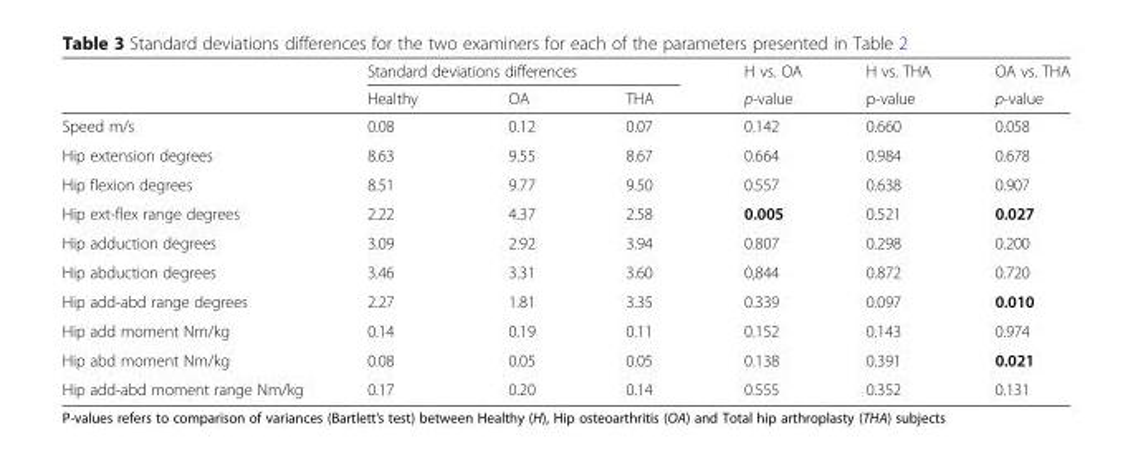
<table><thead><tr><td rowspan="2"></td><td colspan="3">Standard deviations differences</td><td rowspan="2">H vs. OA p-value</td><td rowspan="2">H vs. THA p-value</td><td rowspan="2">OA vs. THA p-value</td></tr><tr><td>Healthy</td><td>OA</td><td>THA</td></tr></thead><tbody><tr><td>Speed m/s</td><td>0.08</td><td>0.12</td><td>0.07</td><td>0.142</td><td>0.660</td><td>0.058</td></tr><tr><td>Hip extension degrees</td><td>8.63</td><td>9.55</td><td>8.67</td><td>0.664</td><td>0.984</td><td>0.678</td></tr><tr><td>Hip flexion degrees</td><td>8.51</td><td>9.77</td><td>9.50</td><td>0.557</td><td>0.638</td><td>0.907</td></tr><tr><td>Hip ext-flex range degrees</td><td>2.22</td><td>4.37</td><td>2.58</td><td>0.005</td><td>0.521</td><td>0.027</td></tr><tr><td>Hip adduction degrees</td><td>3.09</td><td>2.92</td><td>3.94</td><td>0.807</td><td>0.298</td><td>0.200</td></tr><tr><td>Hip abduction degrees</td><td>3.46</td><td>3.31</td><td>3.60</td><td>0,844</td><td>0.872</td><td>0.720</td></tr><tr><td>Hip add-abd range degrees</td><td>2.27</td><td>1.81</td><td>3.35</td><td>0.339</td><td>0.097</td><td>0.010</td></tr><tr><td>Hip add moment Nm/kg</td><td>0.14</td><td>0.19</td><td>0.11</td><td>0.152</td><td>0.143</td><td>0.974</td></tr><tr><td>Hip abd moment Nm/kg</td><td>0.08</td><td>0.05</td><td>0.05</td><td>0.138</td><td>0.391</td><td>0.021</td></tr><tr><td>Hip add-abd moment range Nm/kg</td><td>0.17</td><td>0.20</td><td>0.14</td><td>0.555</td><td>0.352</td><td>0.131</td></tr></tbody></table>